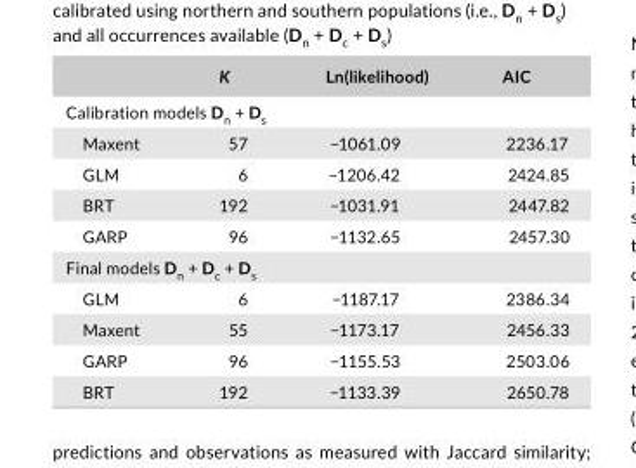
<table><thead><tr><td></td><td>K</td><td>Ln(likelihood)</td><td>AIC</td></tr></thead><tbody><tr><td colspan="4">Calibration models D<sub>n</sub> + D<sub>s</sub></td></tr><tr><td>Maxent</td><td>57</td><td>−1061.09</td><td>2236.17</td></tr><tr><td>GLM</td><td>6</td><td>−1206.42</td><td>2424.85</td></tr><tr><td>BRT</td><td>192</td><td>−1031.91</td><td>2447.82</td></tr><tr><td>GARP</td><td>96</td><td>−1132.65</td><td>2457.30</td></tr><tr><td colspan="4">Final models D<sub>n</sub> + D<sub>c</sub> + D<sub>s</sub></td></tr><tr><td>GLM</td><td>6</td><td>−1187.17</td><td>2386.34</td></tr><tr><td>Maxent</td><td>55</td><td>−1173.17</td><td>2456.33</td></tr><tr><td>GARP</td><td>96</td><td>−1155.53</td><td>2503.06</td></tr><tr><td>BRT</td><td>192</td><td>−1133.39</td><td>2650.78</td></tr></tbody></table>